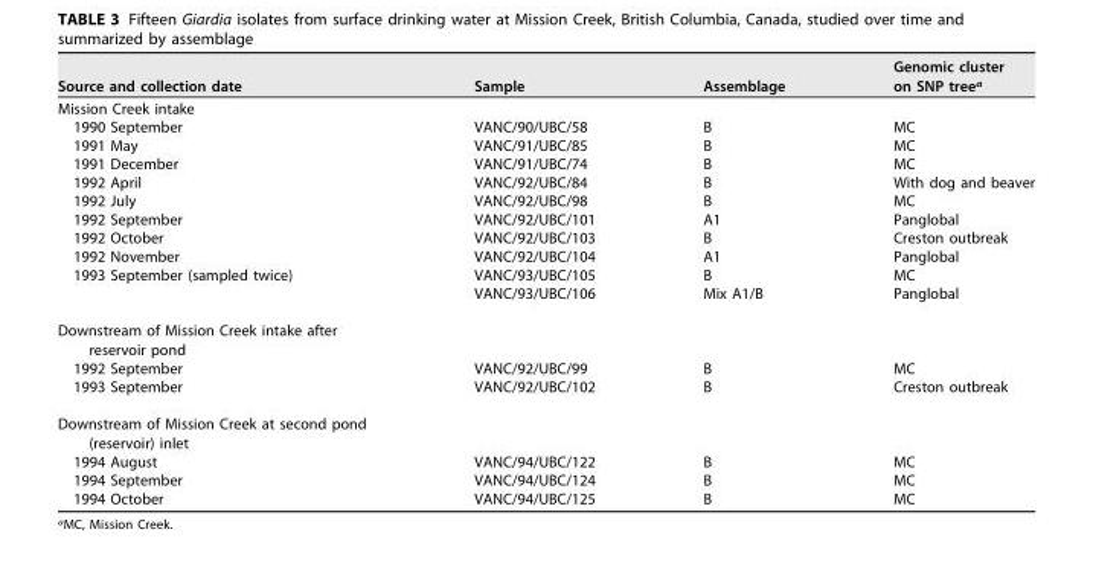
<table><thead><tr><td>Source and collection date</td><td>Sample</td><td>Assemblage</td><td>Genomic cluster on SNP tree<sup>a</sup></td></tr></thead><tbody><tr><td colspan="4">Mission Creek intake</td></tr><tr><td>1990 September</td><td>VANC/90/UBC/58</td><td>B</td><td>MC</td></tr><tr><td>1991 May</td><td>VANC/91/UBC/85</td><td>B</td><td>MC</td></tr><tr><td>1991 December</td><td>VANC/91/UBC/74</td><td>B</td><td>MC</td></tr><tr><td>1992 April</td><td>VANC/92/UBC/84</td><td>B</td><td>With dog and beaver</td></tr><tr><td>1992 July</td><td>VANC/92/UBC/98</td><td>B</td><td>MC</td></tr><tr><td>1992 September</td><td>VANC/92/UBC/101</td><td>A1</td><td>Panglobal</td></tr><tr><td>1992 October</td><td>VANC/92/UBC/103</td><td>B</td><td>Creston outbreak</td></tr><tr><td>1992 November</td><td>VANC/92/UBC/104</td><td>A1</td><td>Panglobal</td></tr><tr><td rowspan="2">1993 September (sampled twice)</td><td>VANC/93/UBC/105</td><td>B</td><td>MC</td></tr><tr><td>VANC/93/UBC/106</td><td>Mix A1/B</td><td>Panglobal</td></tr><tr><td colspan="4">Downstream of Mission Creek intake after reservoir pond</td></tr><tr><td>1992 September</td><td>VANC/92/UBC/99</td><td>B</td><td>MC</td></tr><tr><td>1993 September</td><td>VANC/92/UBC/102</td><td>B</td><td>Creston outbreak</td></tr><tr><td colspan="4">Downstream of Mission Creek at second pond (reservoir) inlet</td></tr><tr><td>1994 August</td><td>VANC/94/UBC/122</td><td>B</td><td>MC</td></tr><tr><td>1994 September</td><td>VANC/94/UBC/124</td><td>B</td><td>MC</td></tr><tr><td>1994 October</td><td>VANC/94/UBC/125</td><td>B</td><td>MC</td></tr></tbody></table>